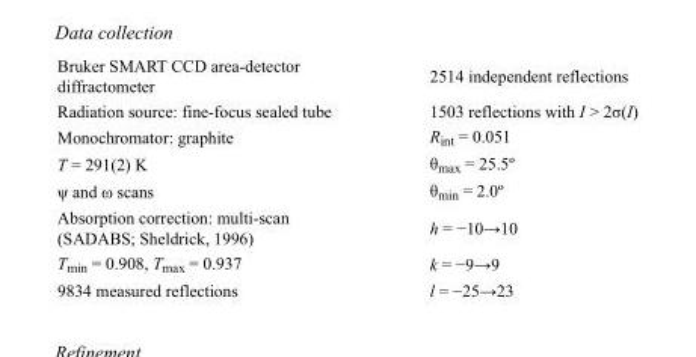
<table><tbody><tr><td>Bruker SMART CCD area-detector diffractometer</td><td>2514 independent reflections</td></tr><tr><td>Radiation source: fine-focus sealed tube</td><td>1503 reflections with I &gt; 2σ(I)</td></tr><tr><td>Monochromator: graphite</td><td>R<sub>int</sub> = 0.051</td></tr><tr><td>T = 291(2) K</td><td>θ<sub>max</sub> = 25.5º</td></tr><tr><td>ψ and ω scans</td><td>θ<sub>min</sub> = 2.0º</td></tr><tr><td>Absorption correction: multi-scan (SADABS; Sheldrick, 1996)</td><td>h = −10→10</td></tr><tr><td>T<sub>min</sub> = 0.908, T<sub>max</sub> = 0.937</td><td>k = −9→9</td></tr><tr><td>9834 measured reflections</td><td>l = −25→23</td></tr></tbody></table>